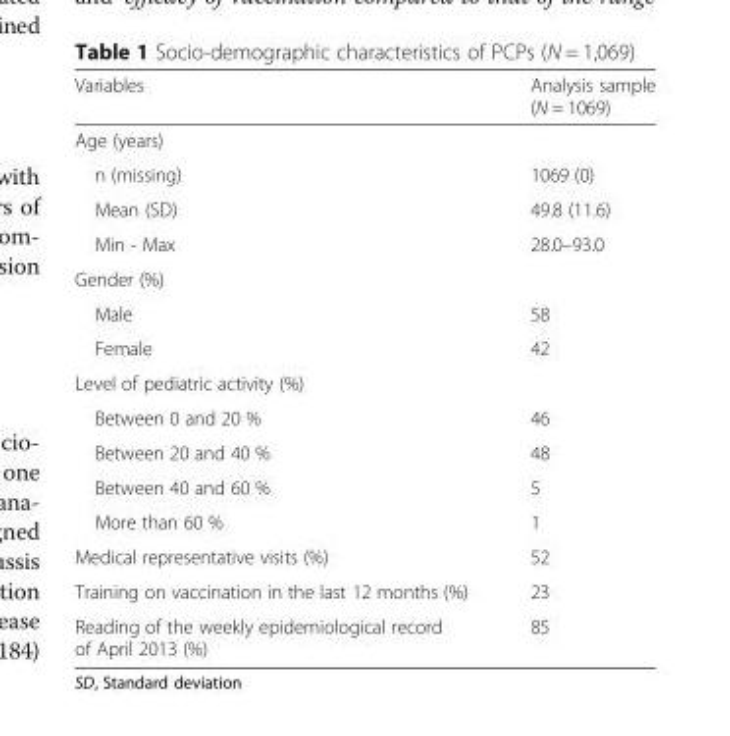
<table><thead><tr><td>Variables</td><td>Analysis sample (N = 1069)</td></tr></thead><tbody><tr><td colspan="2">Age (years)</td></tr><tr><td>n (missing)</td><td>1069 (0)</td></tr><tr><td>Mean (SD)</td><td>49.8 (11.6)</td></tr><tr><td>Min - Max</td><td>28.0–93.0</td></tr><tr><td colspan="2">Gender (%)</td></tr><tr><td>Male</td><td>58</td></tr><tr><td>Female</td><td>42</td></tr><tr><td colspan="2">Level of pediatric activity (%)</td></tr><tr><td>Between 0 and 20 %</td><td>46</td></tr><tr><td>Between 20 and 40 %</td><td>48</td></tr><tr><td>Between 40 and 60 %</td><td>5</td></tr><tr><td>More than 60 %</td><td>1</td></tr><tr><td>Medical representative visits (%)</td><td>52</td></tr><tr><td>Training on vaccination in the last 12 months (%)</td><td>23</td></tr><tr><td>Reading of the weekly epidemiological record of April 2013 (%)</td><td>85</td></tr></tbody></table>